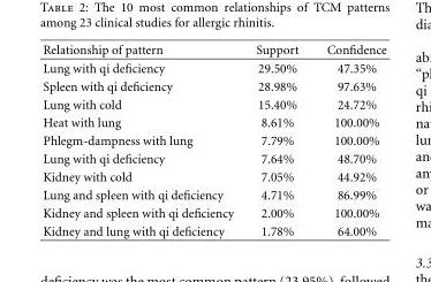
<table><thead><tr><td>Relationship of pattern</td><td>Support</td><td>Confidence</td></tr></thead><tbody><tr><td>Lung with qi deficiency</td><td>29.50%</td><td>47.35%</td></tr><tr><td>Spleen with qi deficiency</td><td>28.98%</td><td>97.63%</td></tr><tr><td>Lung with cold</td><td>15.40%</td><td>24.72%</td></tr><tr><td>Heat with lung</td><td>8.61%</td><td>100.00%</td></tr><tr><td>Phlegm-dampness with lung</td><td>7.79%</td><td>100.00%</td></tr><tr><td>Lung with qi deficiency</td><td>7.64%</td><td>48.70%</td></tr><tr><td>Kidney with cold</td><td>7.05%</td><td>44.92%</td></tr><tr><td>Lung and spleen with qi deficiency</td><td>4.71%</td><td>86.99%</td></tr><tr><td>Kidney and spleen with qi deficiency</td><td>2.00%</td><td>100.00%</td></tr><tr><td>Kidney and lung with qi deficiency</td><td>1.78%</td><td>64.00%</td></tr></tbody></table>